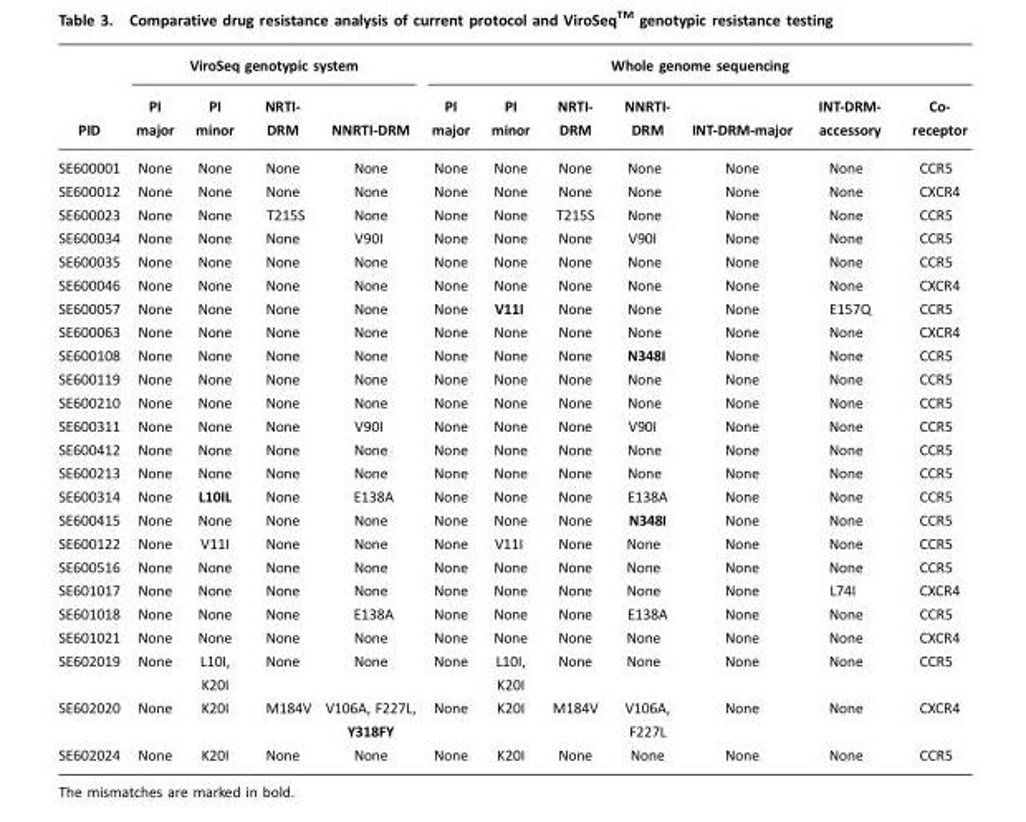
<table><thead><tr><td rowspan="2">PID</td><td colspan="4">ViroSeq genotypic system</td><td colspan="7">Whole genome sequencing</td></tr><tr><td>PI major</td><td>PI minor</td><td>NRTI- DRM</td><td>NNRTI-DRM</td><td>PI major</td><td>PI minor</td><td>NRTI- DRM</td><td>NNRTI- DRM</td><td>INT-DRM-major</td><td>INT-DRM- accessory</td><td>Co- receptor</td></tr></thead><tbody><tr><td>SE600001</td><td>None</td><td>None</td><td>None</td><td>None</td><td>None</td><td>None</td><td>None</td><td>None</td><td>None</td><td>None</td><td>CCR5</td></tr><tr><td>SE600012</td><td>None</td><td>None</td><td>None</td><td>None</td><td>None</td><td>None</td><td>None</td><td>None</td><td>None</td><td>None</td><td>CXCR4</td></tr><tr><td>SE600023</td><td>None</td><td>None</td><td>T215S</td><td>None</td><td>None</td><td>None</td><td>T215S</td><td>None</td><td>None</td><td>None</td><td>CCR5</td></tr><tr><td>SE600034</td><td>None</td><td>None</td><td>None</td><td>V90I</td><td>None</td><td>None</td><td>None</td><td>V90I</td><td>None</td><td>None</td><td>CCR5</td></tr><tr><td>SE600035</td><td>None</td><td>None</td><td>None</td><td>None</td><td>None</td><td>None</td><td>None</td><td>None</td><td>None</td><td>None</td><td>CCR5</td></tr><tr><td>SE600046</td><td>None</td><td>None</td><td>None</td><td>None</td><td>None</td><td>None</td><td>None</td><td>None</td><td>None</td><td>None</td><td>CXCR4</td></tr><tr><td>SE600057</td><td>None</td><td>None</td><td>None</td><td>None</td><td>None</td><td>V11I</td><td>None</td><td>None</td><td>None</td><td>E157Q</td><td>CCR5</td></tr><tr><td>SE600063</td><td>None</td><td>None</td><td>None</td><td>None</td><td>None</td><td>None</td><td>None</td><td>None</td><td>None</td><td>None</td><td>CXCR4</td></tr><tr><td>SE600108</td><td>None</td><td>None</td><td>None</td><td>None</td><td>None</td><td>None</td><td>None</td><td>N348I</td><td>None</td><td>None</td><td>CCR5</td></tr><tr><td>SE600119</td><td>None</td><td>None</td><td>None</td><td>None</td><td>None</td><td>None</td><td>None</td><td>None</td><td>None</td><td>None</td><td>CCR5</td></tr><tr><td>SE600210</td><td>None</td><td>None</td><td>None</td><td>None</td><td>None</td><td>None</td><td>None</td><td>None</td><td>None</td><td>None</td><td>CCR5</td></tr><tr><td>SE600311</td><td>None</td><td>None</td><td>None</td><td>V90I</td><td>None</td><td>None</td><td>None</td><td>V90I</td><td>None</td><td>None</td><td>CCR5</td></tr><tr><td>SE600412</td><td>None</td><td>None</td><td>None</td><td>None</td><td>None</td><td>None</td><td>None</td><td>None</td><td>None</td><td>None</td><td>CCR5</td></tr><tr><td>SE600213</td><td>None</td><td>None</td><td>None</td><td>None</td><td>None</td><td>None</td><td>None</td><td>None</td><td>None</td><td>None</td><td>CCR5</td></tr><tr><td>SE600314</td><td>None</td><td>L10IL</td><td>None</td><td>E138A</td><td>None</td><td>None</td><td>None</td><td>E138A</td><td>None</td><td>None</td><td>CCR5</td></tr><tr><td>SE600415</td><td>None</td><td>None</td><td>None</td><td>None</td><td>None</td><td>None</td><td>None</td><td>N348I</td><td>None</td><td>None</td><td>CCR5</td></tr><tr><td>SE600122</td><td>None</td><td>V11I</td><td>None</td><td>None</td><td>None</td><td>V11I</td><td>None</td><td>None</td><td>None</td><td>None</td><td>CCR5</td></tr><tr><td>SE600516</td><td>None</td><td>None</td><td>None</td><td>None</td><td>None</td><td>None</td><td>None</td><td>None</td><td>None</td><td>None</td><td>CCR5</td></tr><tr><td>SE601017</td><td>None</td><td>None</td><td>None</td><td>None</td><td>None</td><td>None</td><td>None</td><td>None</td><td>None</td><td>L74I</td><td>CXCR4</td></tr><tr><td>SE601018</td><td>None</td><td>None</td><td>None</td><td>E138A</td><td>None</td><td>None</td><td>None</td><td>E138A</td><td>None</td><td>None</td><td>CCR5</td></tr><tr><td>SE601021</td><td>None</td><td>None</td><td>None</td><td>None</td><td>None</td><td>None</td><td>None</td><td>None</td><td>None</td><td>None</td><td>CXCR4</td></tr><tr><td>SE602019</td><td>None</td><td>L10I, K20I</td><td>None</td><td>None</td><td>None</td><td>L10I, K20I</td><td>None</td><td>None</td><td>None</td><td>None</td><td>CCR5</td></tr><tr><td>SE602020</td><td>None</td><td>K20I</td><td>M184V</td><td>V106A, F227L, Y318FY</td><td>None</td><td>K20I</td><td>M184V</td><td>V106A, F227L</td><td>None</td><td>None</td><td>CXCR4</td></tr><tr><td>SE602024</td><td>None</td><td>K20I</td><td>None</td><td>None</td><td>None</td><td>K20I</td><td>None</td><td>None</td><td>None</td><td>None</td><td>CCR5</td></tr></tbody></table>